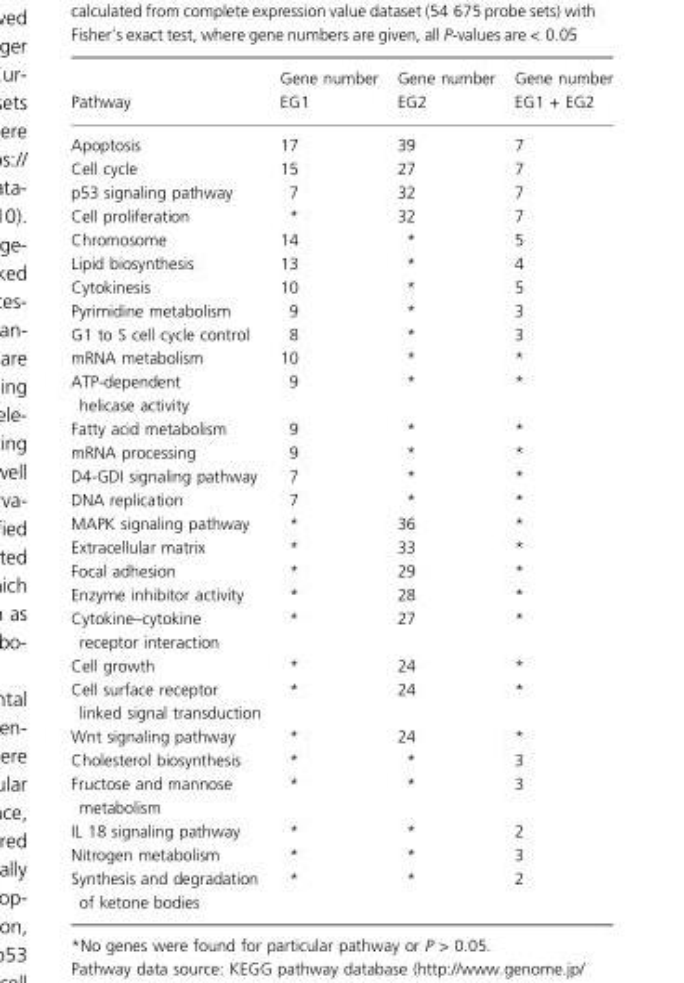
<table><thead><tr><td>Pathway</td><td>Gene number EG1</td><td>Gene number EG2</td><td>Gene number EG1 + EG2</td></tr></thead><tbody><tr><td>Apoptosis</td><td>17</td><td>39</td><td>7</td></tr><tr><td>Cell cycle</td><td>15</td><td>27</td><td>7</td></tr><tr><td>p53 signaling pathway</td><td>7</td><td>32</td><td>7</td></tr><tr><td>Cell proliferation</td><td>*</td><td>32</td><td>7</td></tr><tr><td>Chromosome</td><td>14</td><td>*</td><td>5</td></tr><tr><td>Lipid biosynthesis</td><td>13</td><td>*</td><td>4</td></tr><tr><td>Cytokinesis</td><td>10</td><td>*</td><td>5</td></tr><tr><td>Pyrimidine metabolism</td><td>9</td><td>*</td><td>3</td></tr><tr><td>G1 to S cell cycle control</td><td>8</td><td>*</td><td>3</td></tr><tr><td>mRNA metabolism</td><td>10</td><td>*</td><td>*</td></tr><tr><td>ATP-dependent helicase activity</td><td>9</td><td>*</td><td>*</td></tr><tr><td>Fatty acid metabolism</td><td>9</td><td>*</td><td>*</td></tr><tr><td>mRNA processing</td><td>9</td><td>*</td><td>*</td></tr><tr><td>D4-GDI signaling pathway</td><td>7</td><td>*</td><td>*</td></tr><tr><td>DNA replication</td><td>7</td><td>*</td><td>*</td></tr><tr><td>MAPK signaling pathway</td><td>*</td><td>36</td><td>*</td></tr><tr><td>Extracellular matrix</td><td>*</td><td>33</td><td>*</td></tr><tr><td>Focal adhesion</td><td>*</td><td>29</td><td>*</td></tr><tr><td>Enzyme inhibitor activity</td><td>*</td><td>28</td><td>*</td></tr><tr><td>Cytokine–cytokine receptor interaction</td><td>*</td><td>27</td><td>*</td></tr><tr><td>Cell growth</td><td>*</td><td>24</td><td>*</td></tr><tr><td>Cell surface receptor linked signal transduction</td><td>*</td><td>24</td><td>*</td></tr><tr><td>Wnt signaling pathway</td><td>*</td><td>24</td><td>*</td></tr><tr><td>Cholesterol biosynthesis</td><td>*</td><td>*</td><td>3</td></tr><tr><td>Fructose and mannose metabolism</td><td>*</td><td>*</td><td>3</td></tr><tr><td>IL 18 signaling pathway</td><td>*</td><td>*</td><td>2</td></tr><tr><td>Nitrogen metabolism</td><td>*</td><td>*</td><td>3</td></tr><tr><td>Synthesis and degradation of ketone bodies</td><td>*</td><td>*</td><td>2</td></tr></tbody></table>